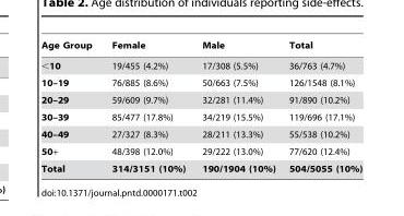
<table><thead><tr><td>Age Group</td><td>Female</td><td>Male</td><td>Total</td></tr></thead><tbody><tr><td>&lt;10</td><td>19/455 (4.2%)</td><td>17/308 (5.5%)</td><td>36/763 (4.7%)</td></tr><tr><td>10–19</td><td>76/885 (8.6%)</td><td>50/663 (7.5%)</td><td>126/1548 (8.1%)</td></tr><tr><td>20–29</td><td>59/609 (9.7%)</td><td>32/281 (11.4%)</td><td>91/890 (10.2%)</td></tr><tr><td>30–39</td><td>85/477 (17.8%)</td><td>34/219 (15.5%)</td><td>119/696 (17.1%)</td></tr><tr><td>40–49</td><td>27/327 (8.3%)</td><td>28/211 (13.3%)</td><td>55/538 (10.2%)</td></tr><tr><td>50+</td><td>48/398 (12.0%)</td><td>29/222 (13.0%)</td><td>77/620 (12.4%)</td></tr><tr><td>Total</td><td>314/3151 (10%)</td><td>190/1904 (10%)</td><td>504/5055 (10%)</td></tr></tbody></table>